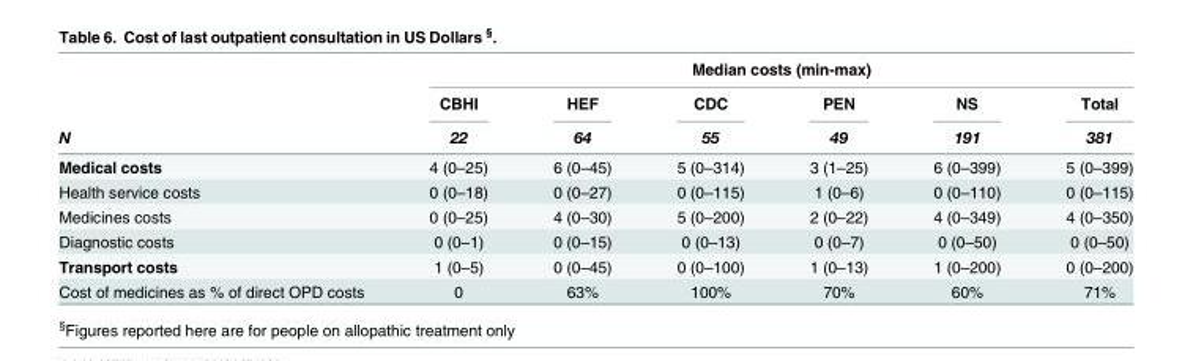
<table><thead><tr><td rowspan="3">N</td><td colspan="6">Median costs (min-max)</td></tr><tr><td rowspan="2">CBHI 22</td><td rowspan="2">HEF 64</td><td rowspan="2">CDC 55</td><td rowspan="2">PEN 49</td><td rowspan="2">NS 191</td><td rowspan="2">Total 381</td></tr><tr></tr></thead><tbody><tr><td>Medical costs</td><td>4 (0–25)</td><td>6 (0–45)</td><td>5 (0–314)</td><td>3 (1–25)</td><td>6 (0–399)</td><td>5 (0–399)</td></tr><tr><td>Health service costs</td><td>0 (0–18)</td><td>0 (0–27)</td><td>0 (0–115)</td><td>1 (0–6)</td><td>0 (0–110)</td><td>0 (0–115)</td></tr><tr><td>Medicines costs</td><td>0 (0–25)</td><td>4 (0–30)</td><td>5 (0–200)</td><td>2 (0–22)</td><td>4 (0–349)</td><td>4 (0–350)</td></tr><tr><td>Diagnostic costs</td><td>0 (0–1)</td><td>0 (0–15)</td><td>0 (0–13)</td><td>0 (0–7)</td><td>0 (0–50)</td><td>0 (0–50)</td></tr><tr><td>Transport costs</td><td>1 (0–5)</td><td>0 (0–45)</td><td>0 (0–100)</td><td>1 (0–13)</td><td>1 (0–200)</td><td>0 (0–200)</td></tr><tr><td>Cost of medicines as % of direct OPD costs</td><td>0</td><td>63%</td><td>100%</td><td>70%</td><td>60%</td><td>71%</td></tr></tbody></table>